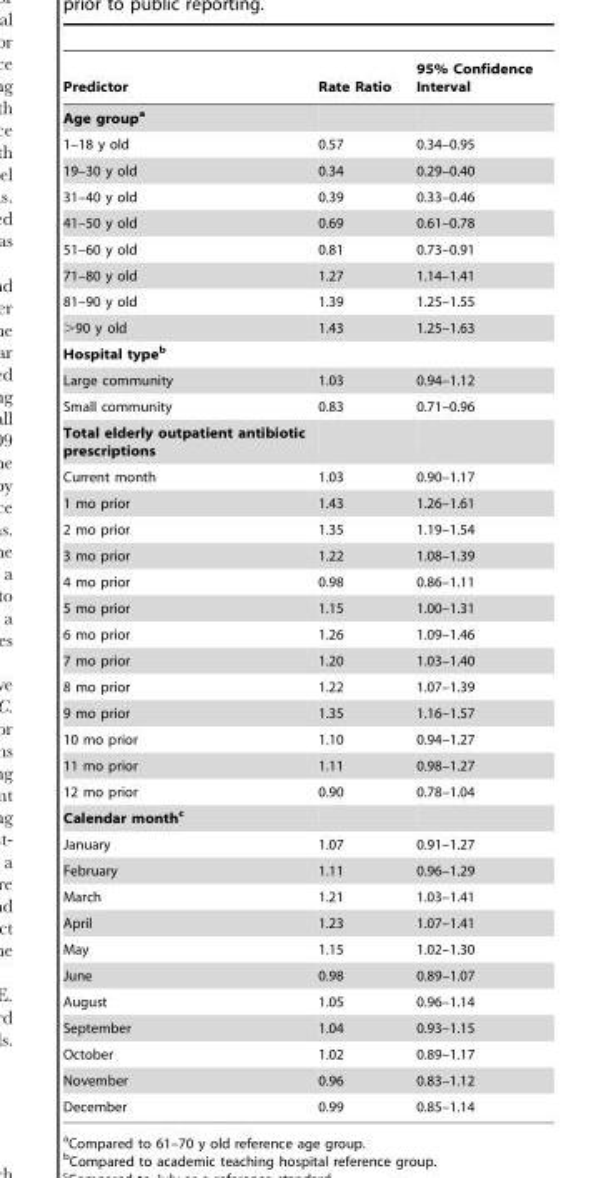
<table><thead><tr><td>Predictor</td><td>Rate Ratio</td><td>95% Confidence Interval</td></tr></thead><tbody><tr><td colspan="3">Age groupa</td></tr><tr><td>1–18 y old</td><td>0.57</td><td>0.34–0.95</td></tr><tr><td>19–30 y old</td><td>0.34</td><td>0.29–0.40</td></tr><tr><td>31–40 y old</td><td>0.39</td><td>0.33–0.46</td></tr><tr><td>41–50 y old</td><td>0.69</td><td>0.61–0.78</td></tr><tr><td>51–60 y old</td><td>0.81</td><td>0.73–0.91</td></tr><tr><td>71–80 y old</td><td>1.27</td><td>1.14–1.41</td></tr><tr><td>81–90 y old</td><td>1.39</td><td>1.25–1.55</td></tr><tr><td>&gt;90 y old</td><td>1.43</td><td>1.25–1.63</td></tr><tr><td colspan="3">Hospital typeb</td></tr><tr><td>Large community</td><td>1.03</td><td>0.94–1.12</td></tr><tr><td>Small community</td><td>0.83</td><td>0.71–0.96</td></tr><tr><td colspan="3">Total elderly outpatient antibiotic prescriptions</td></tr><tr><td>Current month</td><td>1.03</td><td>0.90–1.17</td></tr><tr><td>1 mo prior</td><td>1.43</td><td>1.26–1.61</td></tr><tr><td>2 mo prior</td><td>1.35</td><td>1.19–1.54</td></tr><tr><td>3 mo prior</td><td>1.22</td><td>1.08–1.39</td></tr><tr><td>4 mo prior</td><td>0.98</td><td>0.86–1.11</td></tr><tr><td>5 mo prior</td><td>1.15</td><td>1.00–1.31</td></tr><tr><td>6 mo prior</td><td>1.26</td><td>1.09–1.46</td></tr><tr><td>7 mo prior</td><td>1.20</td><td>1.03–1.40</td></tr><tr><td>8 mo prior</td><td>1.22</td><td>1.07–1.39</td></tr><tr><td>9 mo prior</td><td>1.35</td><td>1.16–1.57</td></tr><tr><td>10 mo prior</td><td>1.10</td><td>0.94–1.27</td></tr><tr><td>11 mo prior</td><td>1.11</td><td>0.98–1.27</td></tr><tr><td>12 mo prior</td><td>0.90</td><td>0.78–1.04</td></tr><tr><td colspan="3">Calendar monthc</td></tr><tr><td>January</td><td>1.07</td><td>0.91–1.27</td></tr><tr><td>February</td><td>1.11</td><td>0.96–1.29</td></tr><tr><td>March</td><td>1.21</td><td>1.03–1.41</td></tr><tr><td>April</td><td>1.23</td><td>1.07–1.41</td></tr><tr><td>May</td><td>1.15</td><td>1.02–1.30</td></tr><tr><td>June</td><td>0.98</td><td>0.89–1.07</td></tr><tr><td>August</td><td>1.05</td><td>0.96–1.14</td></tr><tr><td>September</td><td>1.04</td><td>0.93–1.15</td></tr><tr><td>October</td><td>1.02</td><td>0.89–1.17</td></tr><tr><td>November</td><td>0.96</td><td>0.83–1.12</td></tr><tr><td>December</td><td>0.99</td><td>0.85–1.14</td></tr></tbody></table>